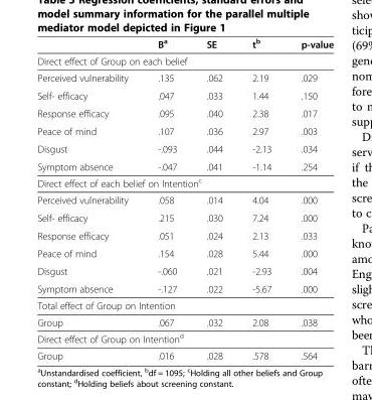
<table><thead><tr><td></td><td>B<sup>a</sup></td><td>SE</td><td>t<sup>b</sup></td><td>p-value</td></tr></thead><tbody><tr><td colspan="5">Direct effect of Group on each belief</td></tr><tr><td>Perceived vulnerability</td><td>.135</td><td>.062</td><td>2.19</td><td>.029</td></tr><tr><td>Self- efficacy</td><td>.047</td><td>.033</td><td>1.44</td><td>.150</td></tr><tr><td>Response efficacy</td><td>.095</td><td>.040</td><td>2.38</td><td>.017</td></tr><tr><td>Peace of mind</td><td>.107</td><td>.036</td><td>2.97</td><td>.003</td></tr><tr><td>Disgust</td><td>-.093</td><td>.044</td><td>-2.13</td><td>.034</td></tr><tr><td>Symptom absence</td><td>-.047</td><td>.041</td><td>-1.14</td><td>.254</td></tr><tr><td colspan="5">Direct effect of each belief on Intention<sup>c</sup></td></tr><tr><td>Perceived vulnerability</td><td>.058</td><td>.014</td><td>4.04</td><td>.000</td></tr><tr><td>Self- efficacy</td><td>.215</td><td>.030</td><td>7.24</td><td>.000</td></tr><tr><td>Response efficacy</td><td>.051</td><td>.024</td><td>2.13</td><td>.033</td></tr><tr><td>Peace of mind</td><td>.154</td><td>.028</td><td>5.44</td><td>.000</td></tr><tr><td>Disgust</td><td>-.060</td><td>.021</td><td>-2.93</td><td>.004</td></tr><tr><td>Symptom absence</td><td>-.127</td><td>.022</td><td>-5.67</td><td>.000</td></tr><tr><td colspan="5">Total effect of Group on Intention</td></tr><tr><td>Group</td><td>.067</td><td>.032</td><td>2.08</td><td>.038</td></tr><tr><td colspan="5">Direct effect of Group on Intention<sup>d</sup></td></tr><tr><td>Group</td><td>.016</td><td>.028</td><td>.578</td><td>.564</td></tr></tbody></table>